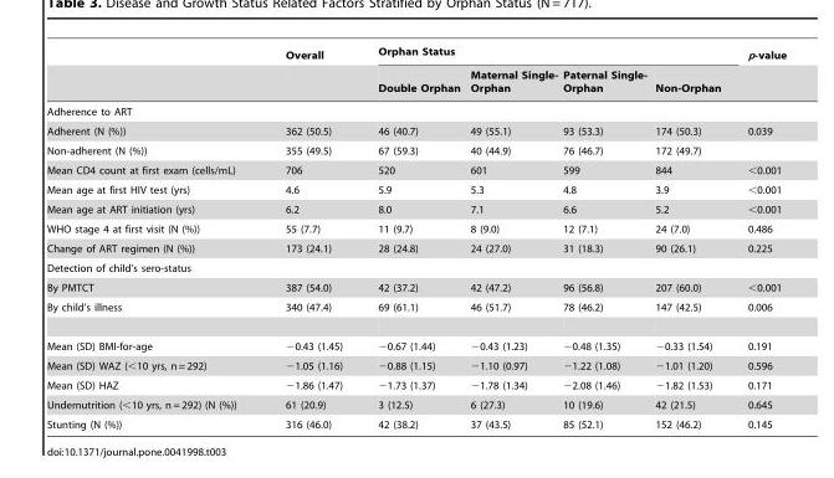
<table><thead><tr><td rowspan="2"></td><td rowspan="2">Overall</td><td colspan="4">Orphan Status</td><td rowspan="2">p-value</td></tr><tr><td>Double Orphan</td><td>Maternal Single- Orphan</td><td>Paternal Single- Orphan</td><td>Non-Orphan</td></tr></thead><tbody><tr><td colspan="7">Adherence to ART</td></tr><tr><td>Adherent (N (%))</td><td>362 (50.5)</td><td>46 (40.7)</td><td>49 (55.1)</td><td>93 (53.3)</td><td>174 (50.3)</td><td>0.039</td></tr><tr><td>Non-adherent (N (%))</td><td>355 (49.5)</td><td>67 (59.3)</td><td>40 (44.9)</td><td>76 (46.7)</td><td>172 (49.7)</td><td></td></tr><tr><td>Mean CD4 count at first exam (cells/mL)</td><td>706</td><td>520</td><td>601</td><td>599</td><td>844</td><td>&lt;0.001</td></tr><tr><td>Mean age at first HIV test (yrs)</td><td>4.6</td><td>5.9</td><td>5.3</td><td>4.8</td><td>3.9</td><td>&lt;0.001</td></tr><tr><td>Mean age at ART initiation (yrs)</td><td>6.2</td><td>8.0</td><td>7.1</td><td>6.6</td><td>5.2</td><td>&lt;0.001</td></tr><tr><td>WHO stage 4 at first visit (N (%))</td><td>55 (7.7)</td><td>11 (9.7)</td><td>8 (9.0)</td><td>12 (7.1)</td><td>24 (7.0)</td><td>0.486</td></tr><tr><td>Change of ART regimen (N (%))</td><td>173 (24.1)</td><td>28 (24.8)</td><td>24 (27.0)</td><td>31 (18.3)</td><td>90 (26.1)</td><td>0.225</td></tr><tr><td colspan="7">Detection of child’s sero-status</td></tr><tr><td>By PMTCT</td><td>387 (54.0)</td><td>42 (37.2)</td><td>42 (47.2)</td><td>96 (56.8)</td><td>207 (60.0)</td><td>&lt;0.001</td></tr><tr><td>By child’s illness</td><td>340 (47.4)</td><td>69 (61.1)</td><td>46 (51.7)</td><td>78 (46.2)</td><td>147 (42.5)</td><td>0.006</td></tr><tr><td>Mean (SD) BMI-for-age</td><td>−0.43 (1.45)</td><td>−0.67 (1.44)</td><td>−0.43 (1.23)</td><td>−0.48 (1.35)</td><td>−0.33 (1.54)</td><td>0.191</td></tr><tr><td>Mean (SD) WAZ (&lt;10 yrs, n = 292)</td><td>−1.05 (1.16)</td><td>−0.88 (1.15)</td><td>−1.10 (0.97)</td><td>−1.22 (1.08)</td><td>−1.01 (1.20)</td><td>0.596</td></tr><tr><td>Mean (SD) HAZ</td><td>−1.86 (1.47)</td><td>−1.73 (1.37)</td><td>−1.78 (1.34)</td><td>−2.08 (1.46)</td><td>−1.82 (1.53)</td><td>0.171</td></tr><tr><td>Undernutrition (&lt;10 yrs, n = 292) (N (%))</td><td>61 (20.9)</td><td>3 (12.5)</td><td>6 (27.3)</td><td>10 (19.6)</td><td>42 (21.5)</td><td>0.645</td></tr><tr><td>Stunting (N (%))</td><td>316 (46.0)</td><td>42 (38.2)</td><td>37 (43.5)</td><td>85 (52.1)</td><td>152 (46.2)</td><td>0.145</td></tr></tbody></table>